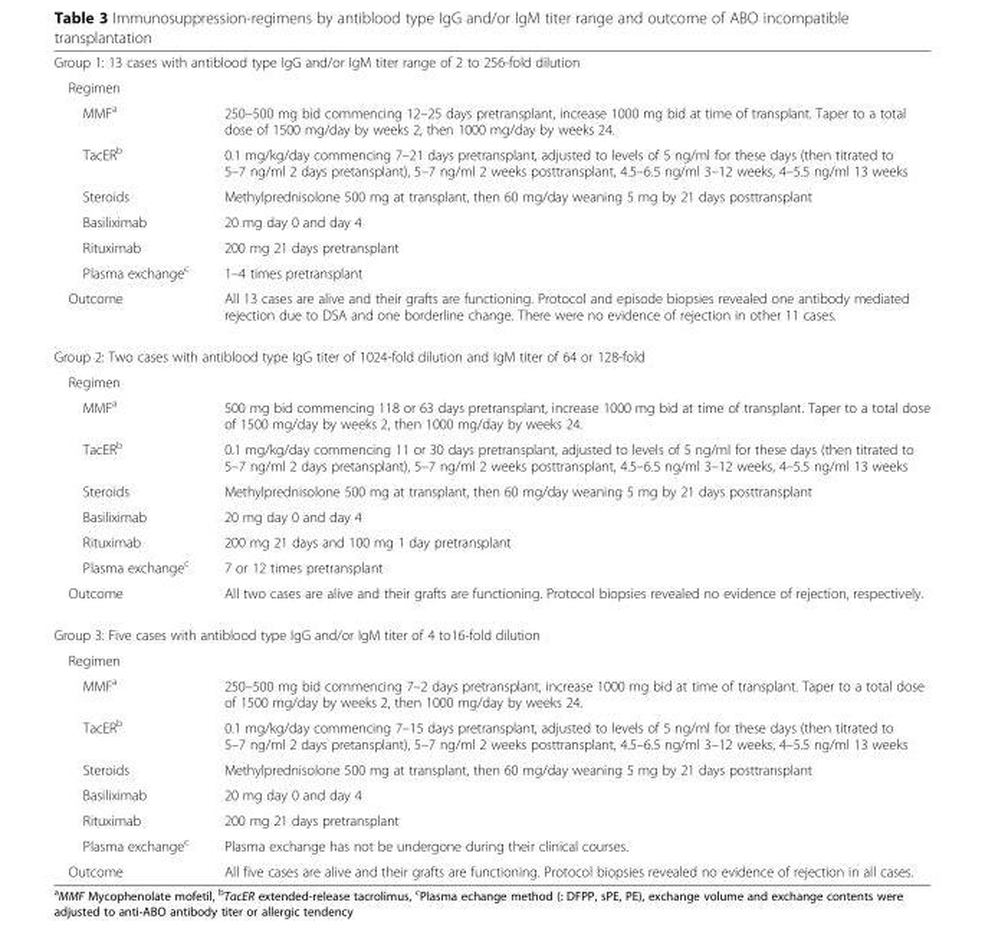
<table><tbody><tr><td colspan="2">Group 1: 13 cases with antiblood type IgG and/or IgM titer range of 2 to 256-fold dilution</td></tr><tr><td colspan="2">Regimen</td></tr><tr><td>MMF<sup>a</sup></td><td>250–500 mg bid commencing 12–25 days pretransplant, increase 1000 mg bid at time of transplant. Taper to a total dose of 1500 mg/day by weeks 2, then 1000 mg/day by weeks 24.</td></tr><tr><td>TacER<sup>b</sup></td><td>0.1 mg/kg/day commencing 7–21 days pretransplant, adjusted to levels of 5 ng/ml for these days (then titrated to 5–7 ng/ml 2 days pretansplant), 5–7 ng/ml 2 weeks posttransplant, 4.5–6.5 ng/ml 3–12 weeks, 4–5.5 ng/ml 13 weeks</td></tr><tr><td>Steroids</td><td>Methylprednisolone 500 mg at transplant, then 60 mg/day weaning 5 mg by 21 days posttransplant</td></tr><tr><td>Basiliximab</td><td>20 mg day 0 and day 4</td></tr><tr><td>Rituximab</td><td>200 mg 21 days pretransplant</td></tr><tr><td>Plasma exchange<sup>c</sup></td><td>1–4 times pretransplant</td></tr><tr><td>Outcome</td><td>All 13 cases are alive and their grafts are functioning. Protocol and episode biopsies revealed one antibody mediated rejection due to DSA and one borderline change. There were no evidence of rejection in other 11 cases.</td></tr><tr><td colspan="2">Group 2: Two cases with antiblood type IgG titer of 1024-fold dilution and IgM titer of 64 or 128-fold</td></tr><tr><td colspan="2">Regimen</td></tr><tr><td>MMF<sup>a</sup></td><td>500 mg bid commencing 118 or 63 days pretransplant, increase 1000 mg bid at time of transplant. Taper to a total dose of 1500 mg/day by weeks 2, then 1000 mg/day by weeks 24.</td></tr><tr><td>TacER<sup>b</sup></td><td>0.1 mg/kg/day commencing 11 or 30 days pretransplant, adjusted to levels of 5 ng/ml for these days (then titrated to 5–7 ng/ml 2 days pretansplant), 5–7 ng/ml 2 weeks posttransplant, 4.5–6.5 ng/ml 3–12 weeks, 4–5.5 ng/ml 13 weeks</td></tr><tr><td>Steroids</td><td>Methylprednisolone 500 mg at transplant, then 60 mg/day weaning 5 mg by 21 days posttransplant</td></tr><tr><td>Basiliximab</td><td>20 mg day 0 and day 4</td></tr><tr><td>Rituximab</td><td>200 mg 21 days and 100 mg 1 day pretransplant</td></tr><tr><td>Plasma exchange<sup>c</sup></td><td>7 or 12 times pretransplant</td></tr><tr><td>Outcome</td><td>All two cases are alive and their grafts are functioning. Protocol biopsies revealed no evidence of rejection, respectively.</td></tr><tr><td colspan="2">Group 3: Five cases with antiblood type IgG and/or IgM titer of 4 to16-fold dilution</td></tr><tr><td colspan="2">Regimen</td></tr><tr><td>MMF<sup>a</sup></td><td>250–500 mg bid commencing 7–2 days pretransplant, increase 1000 mg bid at time of transplant. Taper to a total dose of 1500 mg/day by weeks 2, then 1000 mg/day by weeks 24.</td></tr><tr><td>TacER<sup>b</sup></td><td>0.1 mg/kg/day commencing 7–15 days pretransplant, adjusted to levels of 5 ng/ml for these days (then titrated to 5–7 ng/ml 2 days pretansplant), 5–7 ng/ml 2 weeks posttransplant, 4.5–6.5 ng/ml 3–12 weeks, 4–5.5 ng/ml 13 weeks</td></tr><tr><td>Steroids</td><td>Methylprednisolone 500 mg at transplant, then 60 mg/day weaning 5 mg by 21 days posttransplant</td></tr><tr><td>Basiliximab</td><td>20 mg day 0 and day 4</td></tr><tr><td>Rituximab</td><td>200 mg 21 days pretransplant</td></tr><tr><td>Plasma exchange<sup>c</sup></td><td>Plasma exchange has not be undergone during their clinical courses.</td></tr><tr><td>Outcome</td><td>All five cases are alive and their grafts are functioning. Protocol biopsies revealed no evidence of rejection in all cases.</td></tr></tbody></table>